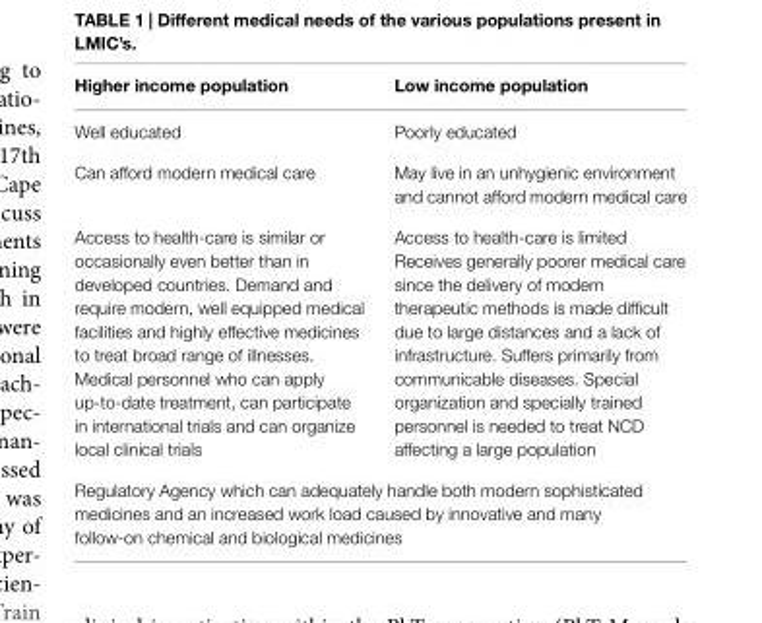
<table><thead><tr><td>Higher income population</td><td>Low income population</td></tr></thead><tbody><tr><td>Well educated</td><td>Poorly educated</td></tr><tr><td>Can afford modern medical care</td><td>May live in an unhygienic environment and cannot afford modern medical care</td></tr><tr><td>Access to health-care is similar or occasionally even better than in developed countries. Demand and require modern, well equipped medical facilities and highly effective medicines to treat broad range of illnesses. Medical personnel who can apply up-to-date treatment, can participate in international trials and can organize local clinical trials</td><td>Access to health-care is limited Receives generally poorer medical care since the delivery of modern therapeutic methods is made difficult due to large distances and a lack of infrastructure. Suffers primarily from communicable diseases. Special organization and specially trained personnel is needed to treat NCD affecting a large population</td></tr><tr><td colspan="2">Regulatory Agency which can adequately handle both modern sophisticated medicines and an increased work load caused by innovative and many follow-on chemical and biological medicines</td></tr></tbody></table>